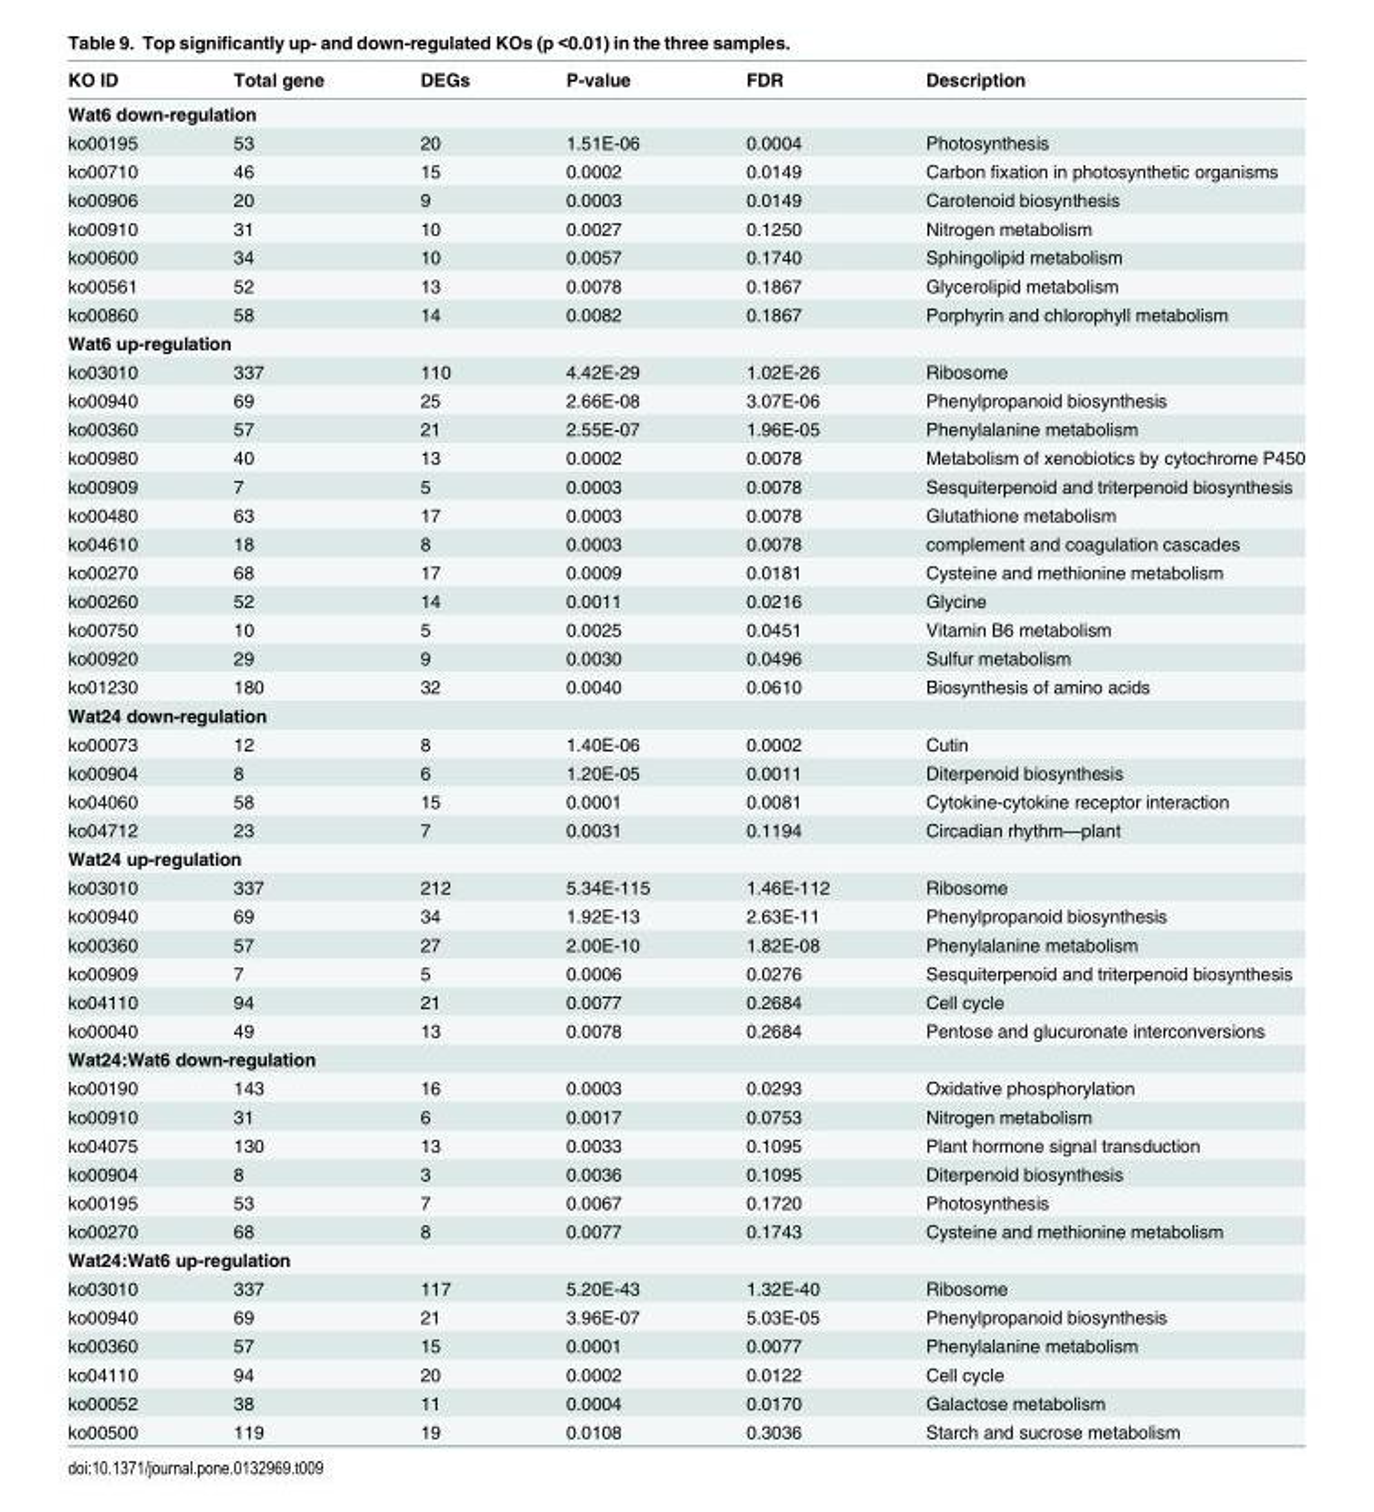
<table><thead><tr><td>KO ID</td><td>Total gene</td><td>DEGs</td><td>P-value</td><td>FDR</td><td>Description</td></tr></thead><tbody><tr><td colspan="6">Wat6 down-regulation</td></tr><tr><td>ko00195</td><td>53</td><td>20</td><td>1.51E-06</td><td>0.0004</td><td>Photosynthesis</td></tr><tr><td>ko00710</td><td>46</td><td>15</td><td>0.0002</td><td>0.0149</td><td>Carbon fixation in photosynthetic organisms</td></tr><tr><td>ko00906</td><td>20</td><td>9</td><td>0.0003</td><td>0.0149</td><td>Carotenoid biosynthesis</td></tr><tr><td>ko00910</td><td>31</td><td>10</td><td>0.0027</td><td>0.1250</td><td>Nitrogen metabolism</td></tr><tr><td>ko00600</td><td>34</td><td>10</td><td>0.0057</td><td>0.1740</td><td>Sphingolipid metabolism</td></tr><tr><td>ko00561</td><td>52</td><td>13</td><td>0.0078</td><td>0.1867</td><td>Glycerolipid metabolism</td></tr><tr><td>ko00860</td><td>58</td><td>14</td><td>0.0082</td><td>0.1867</td><td>Porphyrin and chlorophyll metabolism</td></tr><tr><td colspan="6">Wat6 up-regulation</td></tr><tr><td>ko03010</td><td>337</td><td>110</td><td>4.42E-29</td><td>1.02E-26</td><td>Ribosome</td></tr><tr><td>ko00940</td><td>69</td><td>25</td><td>2.66E-08</td><td>3.07E-06</td><td>Phenylpropanoid biosynthesis</td></tr><tr><td>ko00360</td><td>57</td><td>21</td><td>2.55E-07</td><td>1.96E-05</td><td>Phenylalanine metabolism</td></tr><tr><td>ko00980</td><td>40</td><td>13</td><td>0.0002</td><td>0.0078</td><td>Metabolism of xenobiotics by cytochrome P450</td></tr><tr><td>ko00909</td><td>7</td><td>5</td><td>0.0003</td><td>0.0078</td><td>Sesquiterpenoid and triterpenoid biosynthesis</td></tr><tr><td>ko00480</td><td>63</td><td>17</td><td>0.0003</td><td>0.0078</td><td>Glutathione metabolism</td></tr><tr><td>ko04610</td><td>18</td><td>8</td><td>0.0003</td><td>0.0078</td><td>complement and coagulation cascades</td></tr><tr><td>ko00270</td><td>68</td><td>17</td><td>0.0009</td><td>0.0181</td><td>Cysteine and methionine metabolism</td></tr><tr><td>ko00260</td><td>52</td><td>14</td><td>0.0011</td><td>0.0216</td><td>Glycine</td></tr><tr><td>ko00750</td><td>10</td><td>5</td><td>0.0025</td><td>0.0451</td><td>Vitamin B6 metabolism</td></tr><tr><td>ko00920</td><td>29</td><td>9</td><td>0.0030</td><td>0.0496</td><td>Sulfur metabolism</td></tr><tr><td>ko01230</td><td>180</td><td>32</td><td>0.0040</td><td>0.0610</td><td>Biosynthesis of amino acids</td></tr><tr><td colspan="6">Wat24 down-regulation</td></tr><tr><td>ko00073</td><td>12</td><td>8</td><td>1.40E-06</td><td>0.0002</td><td>Cutin</td></tr><tr><td>ko00904</td><td>8</td><td>6</td><td>1.20E-05</td><td>0.0011</td><td>Diterpenoid biosynthesis</td></tr><tr><td>ko04060</td><td>58</td><td>15</td><td>0.0001</td><td>0.0081</td><td>Cytokine-cytokine receptor interaction</td></tr><tr><td>ko04712</td><td>23</td><td>7</td><td>0.0031</td><td>0.1194</td><td>Circadian rhythm—plant</td></tr><tr><td colspan="6">Wat24 up-regulation</td></tr><tr><td>ko03010</td><td>337</td><td>212</td><td>5.34E-115</td><td>1.46E-112</td><td>Ribosome</td></tr><tr><td>ko00940</td><td>69</td><td>34</td><td>1.92E-13</td><td>2.63E-11</td><td>Phenylpropanoid biosynthesis</td></tr><tr><td>ko00360</td><td>57</td><td>27</td><td>2.00E-10</td><td>1.82E-08</td><td>Phenylalanine metabolism</td></tr><tr><td>ko00909</td><td>7</td><td>5</td><td>0.0006</td><td>0.0276</td><td>Sesquiterpenoid and triterpenoid biosynthesis</td></tr><tr><td>ko04110</td><td>94</td><td>21</td><td>0.0077</td><td>0.2684</td><td>Cell cycle</td></tr><tr><td>ko00040</td><td>49</td><td>13</td><td>0.0078</td><td>0.2684</td><td>Pentose and glucuronate interconversions</td></tr><tr><td colspan="6">Wat24:Wat6 down-regulation</td></tr><tr><td>ko00190</td><td>143</td><td>16</td><td>0.0003</td><td>0.0293</td><td>Oxidative phosphorylation</td></tr><tr><td>ko00910</td><td>31</td><td>6</td><td>0.0017</td><td>0.0753</td><td>Nitrogen metabolism</td></tr><tr><td>ko04075</td><td>130</td><td>13</td><td>0.0033</td><td>0.1095</td><td>Plant hormone signal transduction</td></tr><tr><td>ko00904</td><td>8</td><td>3</td><td>0.0036</td><td>0.1095</td><td>Diterpenoid biosynthesis</td></tr><tr><td>ko00195</td><td>53</td><td>7</td><td>0.0067</td><td>0.1720</td><td>Photosynthesis</td></tr><tr><td>ko00270</td><td>68</td><td>8</td><td>0.0077</td><td>0.1743</td><td>Cysteine and methionine metabolism</td></tr><tr><td colspan="6">Wat24:Wat6 up-regulation</td></tr><tr><td>ko03010</td><td>337</td><td>117</td><td>5.20E-43</td><td>1.32E-40</td><td>Ribosome</td></tr><tr><td>ko00940</td><td>69</td><td>21</td><td>3.96E-07</td><td>5.03E-05</td><td>Phenylpropanoid biosynthesis</td></tr><tr><td>ko00360</td><td>57</td><td>15</td><td>0.0001</td><td>0.0077</td><td>Phenylalanine metabolism</td></tr><tr><td>ko04110</td><td>94</td><td>20</td><td>0.0002</td><td>0.0122</td><td>Cell cycle</td></tr><tr><td>ko00052</td><td>38</td><td>11</td><td>0.0004</td><td>0.0170</td><td>Galactose metabolism</td></tr><tr><td>ko00500</td><td>119</td><td>19</td><td>0.0108</td><td>0.3036</td><td>Starch and sucrose metabolism</td></tr></tbody></table>